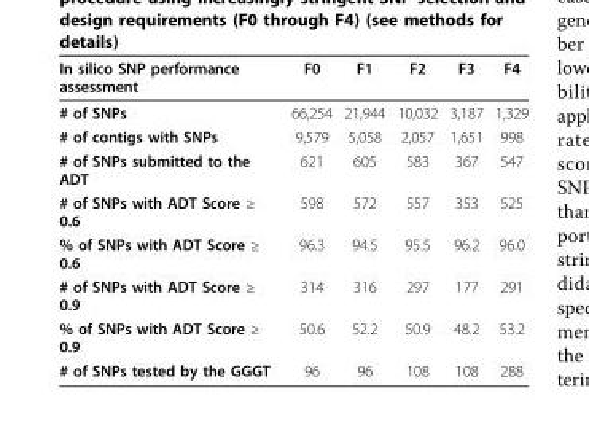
<table><thead><tr><td>In silico SNP performance assessment</td><td>F0</td><td>F1</td><td>F2</td><td>F3</td><td>F4</td></tr></thead><tbody><tr><td># of SNPs</td><td>66,254</td><td>21,944</td><td>10,032</td><td>3,187</td><td>1,329</td></tr><tr><td># of contigs with SNPs</td><td>9,579</td><td>5,058</td><td>2,057</td><td>1,651</td><td>998</td></tr><tr><td># of SNPs submitted to the ADT</td><td>621</td><td>605</td><td>583</td><td>367</td><td>547</td></tr><tr><td># of SNPs with ADT Score ≥ 0.6</td><td>598</td><td>572</td><td>557</td><td>353</td><td>525</td></tr><tr><td>% of SNPs with ADT Score ≥ 0.6</td><td>96.3</td><td>94.5</td><td>95.5</td><td>96.2</td><td>96.0</td></tr><tr><td># of SNPs with ADT Score ≥ 0.9</td><td>314</td><td>316</td><td>297</td><td>177</td><td>291</td></tr><tr><td>% of SNPs with ADT Score ≥ 0.9</td><td>50.6</td><td>52.2</td><td>50.9</td><td>48.2</td><td>53.2</td></tr><tr><td># of SNPs tested by the GGGT</td><td>96</td><td>96</td><td>108</td><td>108</td><td>288</td></tr></tbody></table>